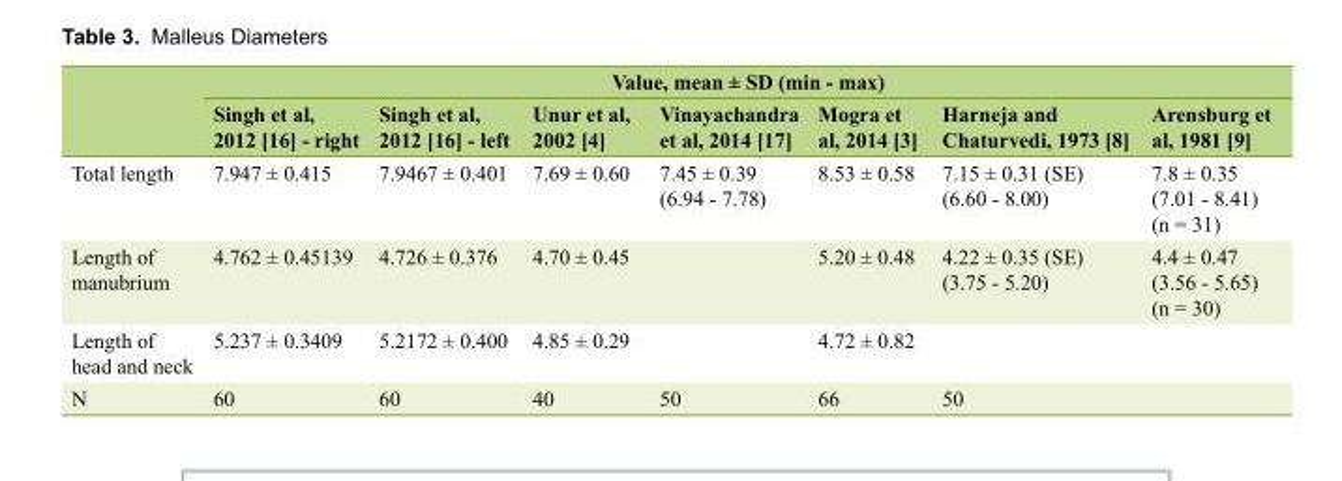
<table><thead><tr><td rowspan="2"></td><td colspan="7">Value, mean ± SD (min - max)</td></tr><tr><td>Singh et al, 2012 [16] - right</td><td>Singh et al, 2012 [16] - left</td><td>Unur et al, 2002 [4]</td><td>Vinayachandra et al, 2014 [17]</td><td>Mogra et al, 2014 [3]</td><td>Harneja and Chaturvedi, 1973 [8]</td><td>Arensburg et al, 1981 [9]</td></tr></thead><tbody><tr><td>Total length</td><td>7.947 ± 0.415</td><td>7.9467 ± 0.401</td><td>7.69 ± 0.60</td><td>7.45 ± 0.39 (6.94 - 7.78)</td><td>8.53 ± 0.58</td><td>7.15 ± 0.31 (SE) (6.60 - 8.00)</td><td>7.8 ± 0.35 (7.01 - 8.41) (n = 31)</td></tr><tr><td>Length of manubrium</td><td>4.762 ± 0.45139</td><td>4.726 ± 0.376</td><td>4.70 ± 0.45</td><td></td><td>5.20 ± 0.48</td><td>4.22 ± 0.35 (SE) (3.75 - 5.20)</td><td>4.4 ± 0.47 (3.56 - 5.65) (n = 30)</td></tr><tr><td>Length of head and neck</td><td>5.237 ± 0.3409</td><td>5.2172 ± 0.400</td><td>4.85 ± 0.29</td><td></td><td>4.72 ± 0.82</td><td></td><td></td></tr><tr><td>N</td><td>60</td><td>60</td><td>40</td><td>50</td><td>66</td><td>50</td><td></td></tr></tbody></table>